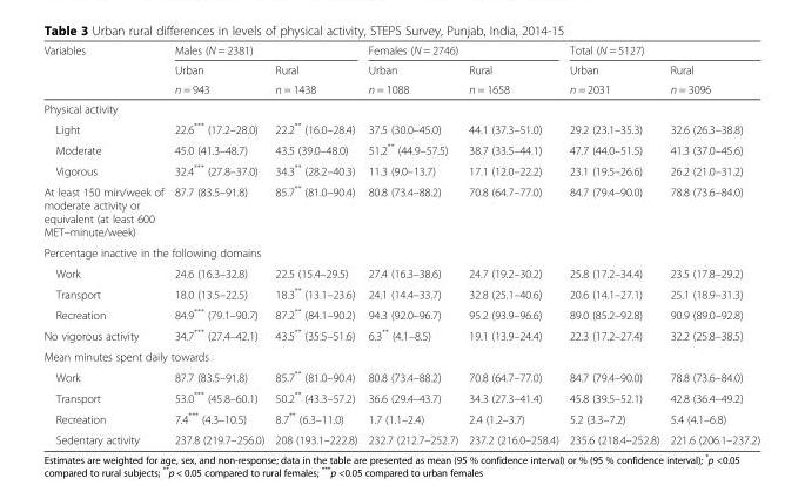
<table><thead><tr><td rowspan="3">Variables</td><td colspan="2">Males (N = 2381)</td><td colspan="2">Females (N = 2746)</td><td colspan="2">Total (N = 5127)</td></tr><tr><td rowspan="2">Urban n = 943</td><td rowspan="2">Rural n = 1438</td><td rowspan="2">Urban n = 1088</td><td rowspan="2">Rural n = 1658</td><td rowspan="2">Urban n = 2031</td><td rowspan="2">Rural n = 3096</td></tr><tr></tr></thead><tbody><tr><td colspan="7">Physical activity</td></tr><tr><td>Light</td><td>22.6*** (17.2–28.0)</td><td>22.2** (16.0–28.4)</td><td>37.5 (30.0–45.0)</td><td>44.1 (37.3–51.0)</td><td>29.2 (23.1–35.3)</td><td>32.6 (26.3–38.8)</td></tr><tr><td>Moderate</td><td>45.0 (41.3–48.7)</td><td>43.5 (39.0–48.0)</td><td>51.2** (44.9–57.5)</td><td>38.7 (33.5–44.1)</td><td>47.7 (44.0–51.5)</td><td>41.3 (37.0–45.6)</td></tr><tr><td>Vigorous</td><td>32.4*** (27.8–37.0)</td><td>34.3** (28.2–40.3)</td><td>11.3 (9.0–13.7)</td><td>17.1 (12.0–22.2)</td><td>23.1 (19.5–26.6)</td><td>26.2 (21.0–31.2)</td></tr><tr><td>At least 150 min/week of moderate activity or equivalent (at least 600 MET–minute/week)</td><td>87.7 (83.5–91.8)</td><td>85.7** (81.0–90.4)</td><td>80.8 (73.4–88.2)</td><td>70.8 (64.7–77.0)</td><td>84.7 (79.4–90.0)</td><td>78.8 (73.6–84.0)</td></tr><tr><td colspan="7">Percentage inactive in the following domains</td></tr><tr><td>Work</td><td>24.6 (16.3–32.8)</td><td>22.5 (15.4–29.5)</td><td>27.4 (16.3–38.6)</td><td>24.7 (19.2–30.2)</td><td>25.8 (17.2–34.4)</td><td>23.5 (17.8–29.2)</td></tr><tr><td>Transport</td><td>18.0 (13.5–22.5)</td><td>18.3** (13.1–23.6)</td><td>24.1 (14.4–33.7)</td><td>32.8 (25.1–40.6)</td><td>20.6 (14.1–27.1)</td><td>25.1 (18.9–31.3)</td></tr><tr><td>Recreation</td><td>84.9*** (79.1–90.7)</td><td>87.2** (84.1–90.2)</td><td>94.3 (92.0–96.7)</td><td>95.2 (93.9–96.6)</td><td>89.0 (85.2–92.8)</td><td>90.9 (89.0–92.8)</td></tr><tr><td>No vigorous activity</td><td>34.7*** (27.4–42.1)</td><td>43.5** (35.5–51.6)</td><td>6.3** (4.1–8.5)</td><td>19.1 (13.9–24.4)</td><td>22.3 (17.2–27.4)</td><td>32.2 (25.8–38.5)</td></tr><tr><td colspan="7">Mean minutes spent daily towards</td></tr><tr><td>Work</td><td>87.7 (83.5–91.8)</td><td>85.7** (81.0–90.4)</td><td>80.8 (73.4–88.2)</td><td>70.8 (64.7–77.0)</td><td>84.7 (79.4–90.0)</td><td>78.8 (73.6–84.0)</td></tr><tr><td>Transport</td><td>53.0*** (45.8–60.1)</td><td>50.2** (43.3–57.2)</td><td>36.6 (29.4–43.7)</td><td>34.3 (27.3–41.4)</td><td>45.8 (39.5–52.1)</td><td>42.8 (36.4–49.2)</td></tr><tr><td>Recreation</td><td>7.4*** (4.3–10.5)</td><td>8.7** (6.3–11.0)</td><td>1.7 (1.1–2.4)</td><td>2.4 (1.2–3.7)</td><td>5.2 (3.3–7.2)</td><td>5.4 (4.1–6.8)</td></tr><tr><td>Sedentary activity</td><td>237.8 (219.7–256.0)</td><td>208 (193.1–222.8)</td><td>232.7 (212.7–252.7)</td><td>237.2 (216.0–258.4)</td><td>235.6 (218.4–252.8)</td><td>221.6 (206.1–237.2)</td></tr></tbody></table>